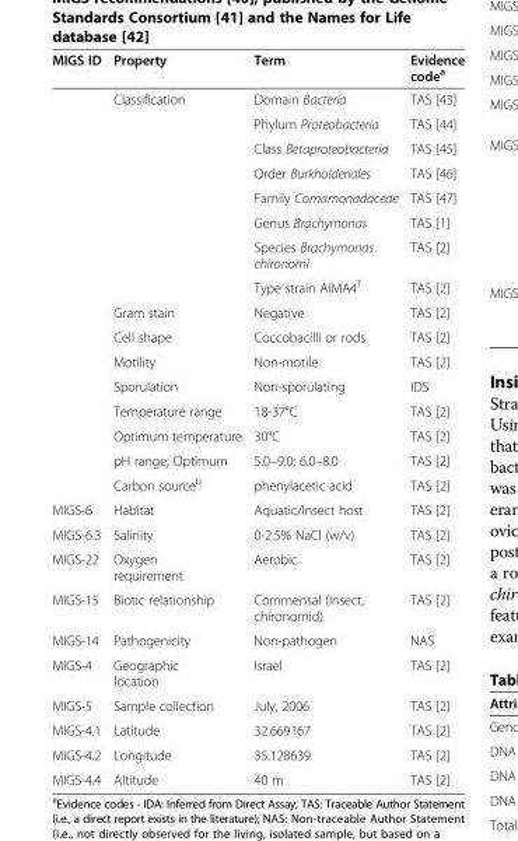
<table><thead><tr><td>MIGS ID</td><td>Property</td><td>Term</td><td>Evidence code<sup>a</sup></td></tr></thead><tbody><tr><td></td><td>Classification</td><td>Domain Bacteria</td><td>TAS [43]</td></tr><tr><td></td><td></td><td>Phylum Proteobacteria</td><td>TAS [44]</td></tr><tr><td></td><td></td><td>Class Betaproteobacteria</td><td>TAS [45]</td></tr><tr><td></td><td></td><td>Order Burkholderiales</td><td>TAS [46]</td></tr><tr><td></td><td></td><td>Family Comamonadaceae</td><td>TAS [47]</td></tr><tr><td></td><td></td><td>Genus Brachymonas</td><td>TAS [1]</td></tr><tr><td></td><td></td><td>Species Brachymonas chironomi</td><td>TAS [2]</td></tr><tr><td></td><td></td><td>Type strain AIMA4<sup>T</sup></td><td>TAS [2]</td></tr><tr><td></td><td>Gram stain</td><td>Negative</td><td>TAS [2]</td></tr><tr><td></td><td>Cell shape</td><td>Coccobacilli or rods</td><td>TAS [2]</td></tr><tr><td></td><td>Motility</td><td>Non-motile</td><td>TAS [2]</td></tr><tr><td></td><td>Sporulation</td><td>Non-sporulating</td><td>IDS</td></tr><tr><td></td><td>Temperature range</td><td>18-37°C</td><td>TAS [2]</td></tr><tr><td></td><td>Optimum temperature</td><td>30°C</td><td>TAS [2]</td></tr><tr><td></td><td>pH range; Optimum</td><td>5.0–9.0; 6.0–8.0</td><td>TAS [2]</td></tr><tr><td></td><td>Carbon source<sup>b</sup></td><td>phenylacetic acid</td><td>TAS [2]</td></tr><tr><td>MIGS-6</td><td>Habitat</td><td>Aquatic/Insect host</td><td>TAS [2]</td></tr><tr><td>MIGS-6.3</td><td>Salinity</td><td>0-2.5% NaCl (w/v)</td><td>TAS [2]</td></tr><tr><td>MIGS-22</td><td>Oxygen requirement</td><td>Aerobic</td><td>TAS [2]</td></tr><tr><td>MIGS-15</td><td>Biotic relationship</td><td>Commensal (Insect, chironomid)</td><td>TAS [2]</td></tr><tr><td>MIGS-14</td><td>Pathogenicity</td><td>Non-pathogen</td><td>NAS</td></tr><tr><td>MIGS-4</td><td>Geographic location</td><td>Israel</td><td>TAS [2]</td></tr><tr><td>MIGS-5</td><td>Sample collection</td><td>July, 2006</td><td>TAS [2]</td></tr><tr><td>MIGS-4.1</td><td>Latitude</td><td>32.669167</td><td>TAS [2]</td></tr><tr><td>MIGS-4.2</td><td>Longitude</td><td>35.128639</td><td>TAS [2]</td></tr><tr><td>MIGS-4.4</td><td>Altitude</td><td>40 m</td><td>TAS [2]</td></tr></tbody></table>